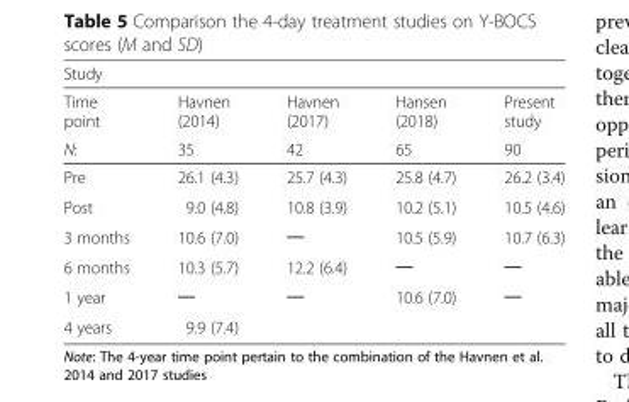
<table><thead><tr><td colspan="5">Study</td></tr><tr><td rowspan="2">Time point N:</td><td rowspan="2">Havnen (2014) 35</td><td rowspan="2">Havnen (2017) 42</td><td rowspan="2">Hansen (2018) 65</td><td rowspan="2">Present study 90</td></tr><tr></tr></thead><tbody><tr><td>Pre</td><td>26.1 (4.3)</td><td>25.7 (4.3)</td><td>25.8 (4.7)</td><td>26.2 (3.4)</td></tr><tr><td>Post</td><td>9.0 (4.8)</td><td>10.8 (3.9)</td><td>10.2 (5.1)</td><td>10.5 (4.6)</td></tr><tr><td>3 months</td><td>10.6 (7.0)</td><td>─</td><td>10.5 (5.9)</td><td>10.7 (6.3)</td></tr><tr><td>6 months</td><td>10.3 (5.7)</td><td>12.2 (6.4)</td><td>─</td><td>─</td></tr><tr><td>1 year</td><td>─</td><td>─</td><td>10.6 (7.0)</td><td>─</td></tr><tr><td>4 years</td><td colspan="4">9.9 (7.4)</td></tr></tbody></table>